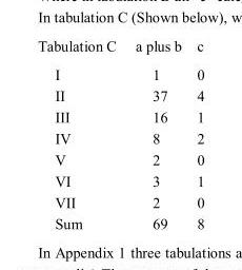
<table><thead><tr><td>Tabulation C</td><td>a plus b</td><td>c</td></tr></thead><tbody><tr><td>I</td><td>1</td><td>0</td></tr><tr><td>II</td><td>37</td><td>4</td></tr><tr><td>III</td><td>16</td><td>1</td></tr><tr><td>IV</td><td>8</td><td>2</td></tr><tr><td>V</td><td>2</td><td>0</td></tr><tr><td>VI</td><td>3</td><td>1</td></tr><tr><td>VII</td><td>2</td><td>0</td></tr><tr><td>Sum</td><td>69</td><td>8</td></tr></tbody></table>